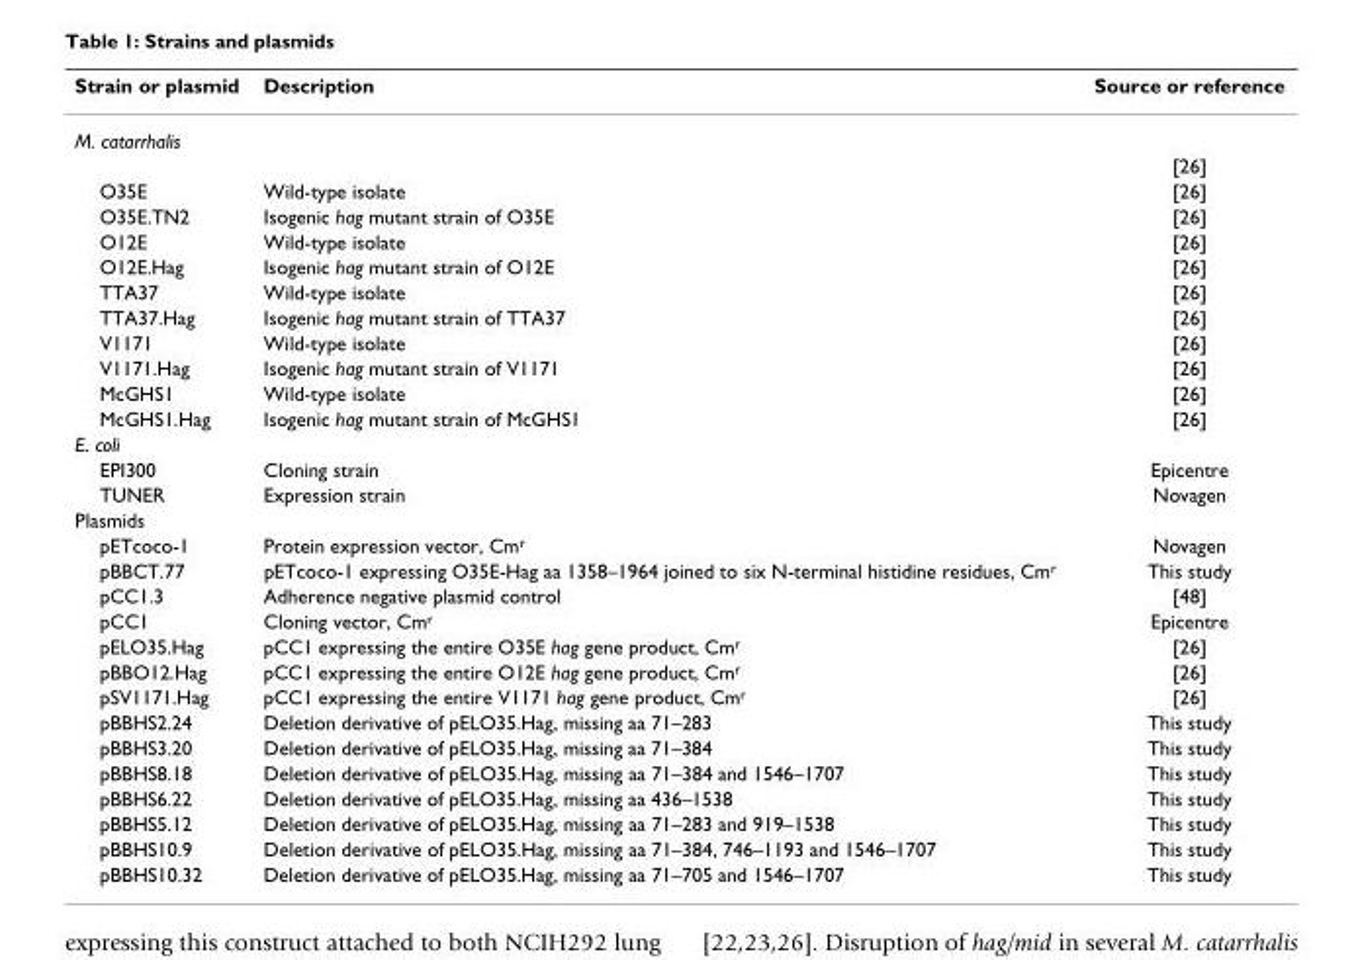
<table><thead><tr><td>Strain or plasmid</td><td>Description</td><td>Source or reference</td></tr></thead><tbody><tr><td colspan="3">M. catarrhalis</td></tr><tr><td></td><td></td><td>[26]</td></tr><tr><td>O35E</td><td>Wild-type isolate</td><td>[26]</td></tr><tr><td>O35E.TN2</td><td>Isogenic hag mutant strain of O35E</td><td>[26]</td></tr><tr><td>O12E</td><td>Wild-type isolate</td><td>[26]</td></tr><tr><td>O12E.Hag</td><td>Isogenic hag mutant strain of O12E</td><td>[26]</td></tr><tr><td>TTA37</td><td>Wild-type isolate</td><td>[26]</td></tr><tr><td>TTA37.Hag</td><td>Isogenic hag mutant strain of TTA37</td><td>[26]</td></tr><tr><td>V1171</td><td>Wild-type isolate</td><td>[26]</td></tr><tr><td>V1171.Hag</td><td>Isogenic hag mutant strain of V1171</td><td>[26]</td></tr><tr><td>McGHS1</td><td>Wild-type isolate</td><td>[26]</td></tr><tr><td>McGHS1.Hag</td><td>Isogenic hag mutant strain of McGHS1</td><td>[26]</td></tr><tr><td colspan="3">E. coli</td></tr><tr><td>EPI300</td><td>Cloning strain</td><td>Epicentre</td></tr><tr><td>TUNER</td><td>Expression strain</td><td>Novagen</td></tr><tr><td colspan="3">Plasmids</td></tr><tr><td>pETcoco-1</td><td>Protein expression vector, Cm<sup>r</sup></td><td>Novagen</td></tr><tr><td>pBBCT.77</td><td>pETcoco-1 expressing O35E-Hag aa 1358–1964 joined to six N-terminal histidine residues, Cm<sup>r</sup></td><td>This study</td></tr><tr><td>pCC1.3</td><td>Adherence negative plasmid control</td><td>[48]</td></tr><tr><td>pCC1</td><td>Cloning vector, Cm<sup>r</sup></td><td>Epicentre</td></tr><tr><td>pELO35.Hag</td><td>pCC1 expressing the entire O35E hag gene product, Cm<sup>r</sup></td><td>[26]</td></tr><tr><td>pBBO12.Hag</td><td>pCC1 expressing the entire O12E hag gene product, Cm<sup>r</sup></td><td>[26]</td></tr><tr><td>pSV1171.Hag</td><td>pCC1 expressing the entire V1171 hag gene product, Cm<sup>r</sup></td><td>[26]</td></tr><tr><td>pBBHS2.24</td><td>Deletion derivative of pELO35.Hag, missing aa 71–283</td><td>This study</td></tr><tr><td>pBBHS3.20</td><td>Deletion derivative of pELO35.Hag, missing aa 71–384</td><td>This study</td></tr><tr><td>pBBHS8.18</td><td>Deletion derivative of pELO35.Hag, missing aa 71–384 and 1546–1707</td><td>This study</td></tr><tr><td>pBBHS6.22</td><td>Deletion derivative of pELO35.Hag, missing aa 436–1538</td><td>This study</td></tr><tr><td>pBBHS5.12</td><td>Deletion derivative of pELO35.Hag, missing aa 71–283 and 919–1538</td><td>This study</td></tr><tr><td>pBBHS10.9</td><td>Deletion derivative of pELO35.Hag, missing aa 71–384, 746–1193 and 1546–1707</td><td>This study</td></tr><tr><td>pBBHS10.32</td><td>Deletion derivative of pELO35.Hag, missing aa 71–705 and 1546–1707</td><td>This study</td></tr></tbody></table>